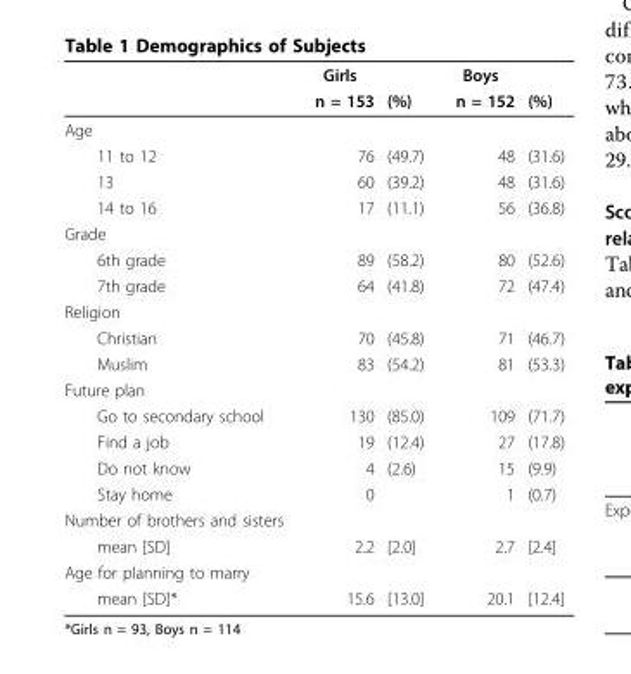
<table><thead><tr><td rowspan="2"></td><td rowspan="2">Girls n = 153</td><td rowspan="2">(%)</td><td rowspan="2">Boys n = 152</td><td rowspan="2">(%)</td></tr><tr></tr></thead><tbody><tr><td colspan="5">Age</td></tr><tr><td>11 to 12</td><td>76</td><td>(49.7)</td><td>48</td><td>(31.6)</td></tr><tr><td>13</td><td>60</td><td>(39.2)</td><td>48</td><td>(31.6)</td></tr><tr><td>14 to 16</td><td>17</td><td>(11.1)</td><td>56</td><td>(36.8)</td></tr><tr><td colspan="5">Grade</td></tr><tr><td>6th grade</td><td>89</td><td>(58.2)</td><td>80</td><td>(52.6)</td></tr><tr><td>7th grade</td><td>64</td><td>(41.8)</td><td>72</td><td>(47.4)</td></tr><tr><td colspan="5">Religion</td></tr><tr><td>Christian</td><td>70</td><td>(45.8)</td><td>71</td><td>(46.7)</td></tr><tr><td>Muslim</td><td>83</td><td>(54.2)</td><td>81</td><td>(53.3)</td></tr><tr><td colspan="5">Future plan</td></tr><tr><td>Go to secondary school</td><td>130</td><td>(85.0)</td><td>109</td><td>(71.7)</td></tr><tr><td>Find a job</td><td>19</td><td>(12.4)</td><td>27</td><td>(17.8)</td></tr><tr><td>Do not know</td><td>4</td><td>(2.6)</td><td>15</td><td>(9.9)</td></tr><tr><td>Stay home</td><td>0</td><td></td><td>1</td><td>(0.7)</td></tr><tr><td colspan="5">Number of brothers and sisters</td></tr><tr><td>mean [SD]</td><td>2.2</td><td>[2.0]</td><td>2.7</td><td>[2.4]</td></tr><tr><td colspan="5">Age for planning to marry</td></tr><tr><td>mean [SD]*</td><td>15.6</td><td>[13.0]</td><td>20.1</td><td>[12.4]</td></tr></tbody></table>